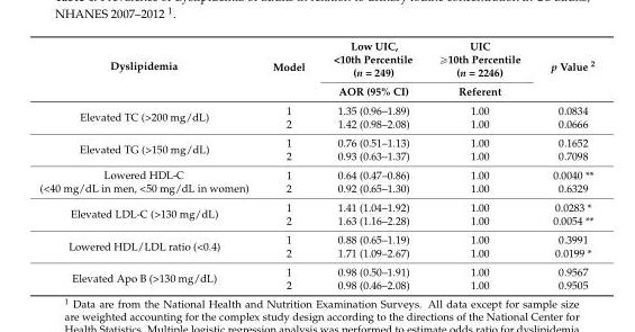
<table><thead><tr><td rowspan="2">Dyslipidemia</td><td rowspan="2">Model</td><td rowspan="2">Low UIC, &lt;10th Percentile (n = 249) AOR (95% CI)</td><td rowspan="2">UIC ě10th Percentile (n = 2246) Referent</td><td rowspan="2">p Value <sup>2</sup></td></tr><tr></tr></thead><tbody><tr><td rowspan="2">Elevated TC (&gt;200 mg/dL)</td><td>1</td><td>1.35 (0.96–1.89)</td><td>1.00</td><td>0.0834</td></tr><tr><td>2</td><td>1.42 (0.98–2.08)</td><td>1.00</td><td>0.0666</td></tr><tr><td rowspan="2">Elevated TG (&gt;150 mg/dL)</td><td>1</td><td>0.76 (0.51–1.13)</td><td>1.00</td><td>0.1652</td></tr><tr><td>2</td><td>0.93 (0.63–1.37)</td><td>1.00</td><td>0.7098</td></tr><tr><td rowspan="2">Lowered HDL-C (&lt;40 mg/dL in men, &lt;50 mg/dL in women)</td><td>1</td><td>0.64 (0.47–0.86)</td><td>1.00</td><td>0.0040 **</td></tr><tr><td>2</td><td>0.92 (0.65–1.30)</td><td>1.00</td><td>0.6329</td></tr><tr><td rowspan="2">Elevated LDL-C (&gt;130 mg/dL)</td><td>1</td><td>1.41 (1.04–1.92)</td><td>1.00</td><td>0.0283 *</td></tr><tr><td>2</td><td>1.63 (1.16–2.28)</td><td>1.00</td><td>0.0054 **</td></tr><tr><td rowspan="2">Lowered HDL/LDL ratio (&lt;0.4)</td><td>1</td><td>0.88 (0.65–1.19)</td><td>1.00</td><td>0.3991</td></tr><tr><td>2</td><td>1.71 (1.09–2.67)</td><td>1.00</td><td>0.0199 *</td></tr><tr><td rowspan="2">Elevated Apo B (&gt;130 mg/dL)</td><td>1</td><td>0.98 (0.50–1.91)</td><td>1.00</td><td>0.9567</td></tr><tr><td>2</td><td>0.98 (0.46–2.08)</td><td>1.00</td><td>0.9505</td></tr></tbody></table>